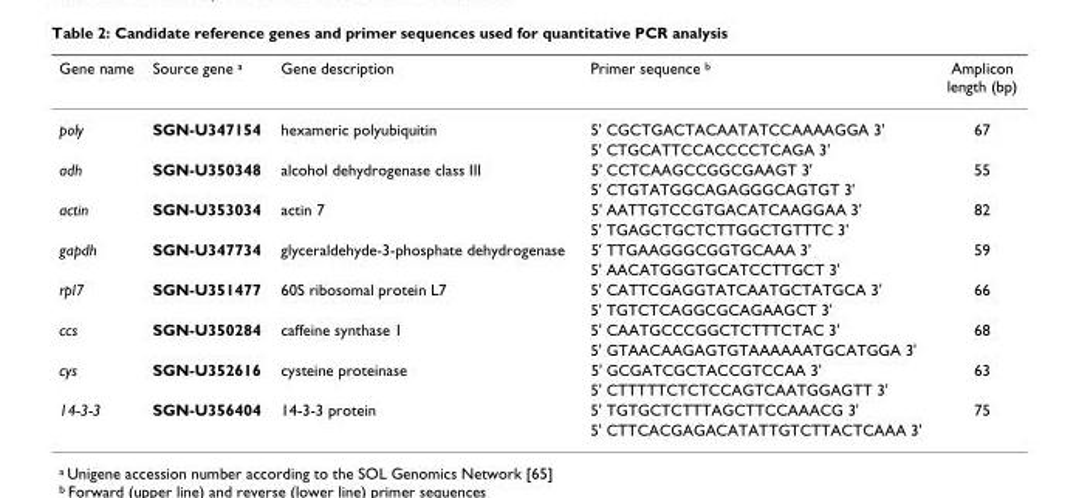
<table><thead><tr><td>Gene name</td><td>Source gene <sup>a</sup></td><td>Gene description</td><td>Primer sequence <sup>b</sup></td><td>Amplicon length (bp)</td></tr></thead><tbody><tr><td rowspan="2">poly</td><td>SGN-U347154</td><td>hexameric polyubiquitin</td><td>5&#x27; CGCTGACTACAATATCCAAAAGGA 3&#x27;</td><td>67</td></tr><tr><td></td><td></td><td>5&#x27; CTGCATTCCACCCCTCAGA 3&#x27;</td><td></td></tr><tr><td rowspan="2">adh</td><td>SGN-U350348</td><td>alcohol dehydrogenase class III</td><td>5&#x27; CCTCAAGCCGGCGAAGT 3&#x27;</td><td>55</td></tr><tr><td></td><td></td><td>5&#x27; CTGTATGGCAGAGGGCAGTGT 3&#x27;</td><td></td></tr><tr><td rowspan="2">actin</td><td>SGN-U353034</td><td>actin 7</td><td>5&#x27; AATTGTCCGTGACATCAAGGAA 3&#x27;</td><td>82</td></tr><tr><td></td><td></td><td>5&#x27; TGAGCTGCTCTTGGCTGTTTC 3&#x27;</td><td></td></tr><tr><td rowspan="2">gapdh</td><td>SGN-U347734</td><td>glyceraldehyde-3-phosphate dehydrogenase</td><td>5&#x27; TTGAAGGGCGGTGCAAA 3&#x27;</td><td>59</td></tr><tr><td></td><td></td><td>5&#x27; AACATGGGTGCATCCTTGCT 3&#x27;</td><td></td></tr><tr><td rowspan="2">rpl7</td><td>SGN-U351477</td><td>60S ribosomal protein L7</td><td>5&#x27; CATTCGAGGTATCAATGCTATGCA 3&#x27;</td><td>66</td></tr><tr><td></td><td></td><td>5&#x27; TGTCTCAGGCGCAGAAGCT 3&#x27;</td><td></td></tr><tr><td rowspan="2">ccs</td><td>SGN-U350284</td><td>caffeine synthase 1</td><td>5&#x27; CAATGCCCGGCTCTTTCTAC 3&#x27;</td><td>68</td></tr><tr><td></td><td></td><td>5&#x27; GTAACAAGAGTGTAAAAAATGCATGGA 3&#x27;</td><td></td></tr><tr><td rowspan="2">cys</td><td>SGN-U352616</td><td>cysteine proteinase</td><td>5&#x27; GCGATCGCTACCGTCCAA 3&#x27;</td><td>63</td></tr><tr><td></td><td></td><td>5&#x27; CTTTTTCTCTCCAGTCAATGGAGTT 3&#x27;</td><td></td></tr><tr><td rowspan="2">14-3-3</td><td>SGN-U356404</td><td>14-3-3 protein</td><td>5&#x27; TGTGCTCTTTAGCTTCCAAACG 3&#x27;</td><td>75</td></tr><tr><td></td><td></td><td>5&#x27; CTTCACGAGACATATTGTCTTACTCAAA 3&#x27;</td><td></td></tr></tbody></table>